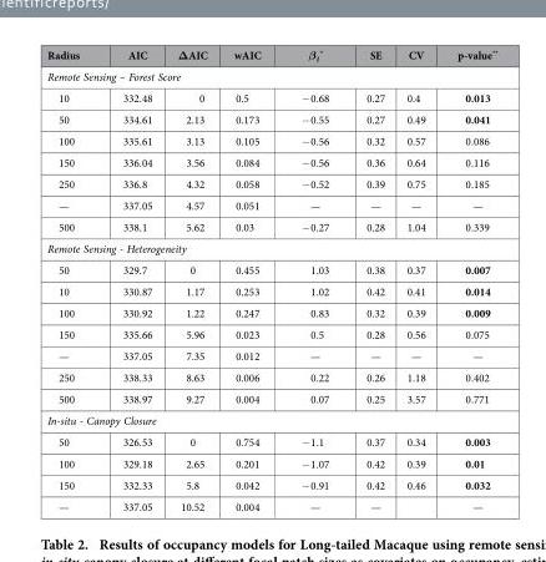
<table><thead><tr><td>Radius</td><td>AIC</td><td>ΔAIC</td><td>wAIC</td><td>β<sub>1</sub> *</td><td>SE</td><td>CV</td><td>p-value**</td></tr></thead><tbody><tr><td colspan="8">Remote Sensing – Forest Score</td></tr><tr><td>10</td><td>332.48</td><td>0</td><td>0.5</td><td>− 0.68</td><td>0.27</td><td>0.4</td><td>0.013</td></tr><tr><td>50</td><td>334.61</td><td>2.13</td><td>0.173</td><td>− 0.55</td><td>0.27</td><td>0.49</td><td>0.041</td></tr><tr><td>100</td><td>335.61</td><td>3.13</td><td>0.105</td><td>− 0.56</td><td>0.32</td><td>0.57</td><td>0.086</td></tr><tr><td>150</td><td>336.04</td><td>3.56</td><td>0.084</td><td>− 0.56</td><td>0.36</td><td>0.64</td><td>0.116</td></tr><tr><td>250</td><td>336.8</td><td>4.32</td><td>0.058</td><td>− 0.52</td><td>0.39</td><td>0.75</td><td>0.185</td></tr><tr><td>—</td><td>337.05</td><td>4.57</td><td>0.051</td><td>—</td><td>—</td><td>—</td><td>—</td></tr><tr><td>500</td><td>338.1</td><td>5.62</td><td>0.03</td><td>− 0.27</td><td>0.28</td><td>1.04</td><td>0.339</td></tr><tr><td colspan="8">Remote Sensing - Heterogeneity</td></tr><tr><td>50</td><td>329.7</td><td>0</td><td>0.455</td><td>1.03</td><td>0.38</td><td>0.37</td><td>0.007</td></tr><tr><td>10</td><td>330.87</td><td>1.17</td><td>0.253</td><td>1.02</td><td>0.42</td><td>0.41</td><td>0.014</td></tr><tr><td>100</td><td>330.92</td><td>1.22</td><td>0.247</td><td>0.83</td><td>0.32</td><td>0.39</td><td>0.009</td></tr><tr><td>150</td><td>335.66</td><td>5.96</td><td>0.023</td><td>0.5</td><td>0.28</td><td>0.56</td><td>0.075</td></tr><tr><td>—</td><td>337.05</td><td>7.35</td><td>0.012</td><td>—</td><td>—</td><td>—</td><td>—</td></tr><tr><td>250</td><td>338.33</td><td>8.63</td><td>0.006</td><td>0.22</td><td>0.26</td><td>1.18</td><td>0.402</td></tr><tr><td>500</td><td>338.97</td><td>9.27</td><td>0.004</td><td>0.07</td><td>0.25</td><td>3.57</td><td>0.771</td></tr><tr><td colspan="8">In-situ - Canopy Closure</td></tr><tr><td>50</td><td>326.53</td><td>0</td><td>0.754</td><td>− 1.1</td><td>0.37</td><td>0.34</td><td>0.003</td></tr><tr><td>100</td><td>329.18</td><td>2.65</td><td>0.201</td><td>− 1.07</td><td>0.42</td><td>0.39</td><td>0.01</td></tr><tr><td>150</td><td>332.33</td><td>5.8</td><td>0.042</td><td>− 0.91</td><td>0.42</td><td>0.46</td><td>0.032</td></tr><tr><td>—</td><td>337.05</td><td>10.52</td><td>0.004</td><td>—</td><td>—</td><td></td><td>—</td></tr></tbody></table>